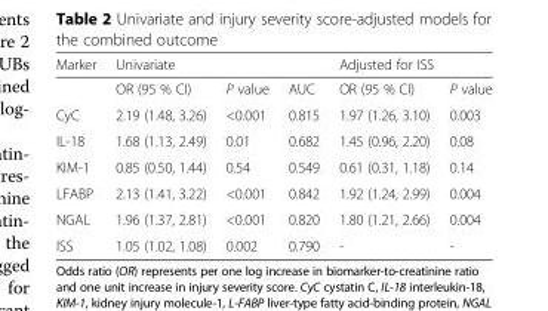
<table><thead><tr><td rowspan="2">Marker</td><td colspan="3">Univariate</td><td colspan="2">Adjusted for ISS</td></tr><tr><td>OR (95 % CI)</td><td>P value</td><td>AUC</td><td>OR (95 % CI)</td><td>P value</td></tr></thead><tbody><tr><td>CyC</td><td>2.19 (1.48, 3.26)</td><td>&lt;0.001</td><td>0.815</td><td>1.97 (1.26, 3.10)</td><td>0.003</td></tr><tr><td>IL-18</td><td>1.68 (1.13, 2.49)</td><td>0.01</td><td>0.682</td><td>1.45 (0.96, 2.20)</td><td>0.08</td></tr><tr><td>KIM-1</td><td>0.85 (0.50, 1.44)</td><td>0.54</td><td>0.549</td><td>0.61 (0.31, 1.18)</td><td>0.14</td></tr><tr><td>LFABP</td><td>2.13 (1.41, 3.22)</td><td>&lt;0.001</td><td>0.842</td><td>1.92 (1.24, 2.99)</td><td>0.004</td></tr><tr><td>NGAL</td><td>1.96 (1.37, 2.81)</td><td>&lt;0.001</td><td>0.820</td><td>1.80 (1.21, 2.66)</td><td>0.004</td></tr><tr><td>ISS</td><td>1.05 (1.02, 1.08)</td><td>0.002</td><td>0.790</td><td>-</td><td>-</td></tr></tbody></table>